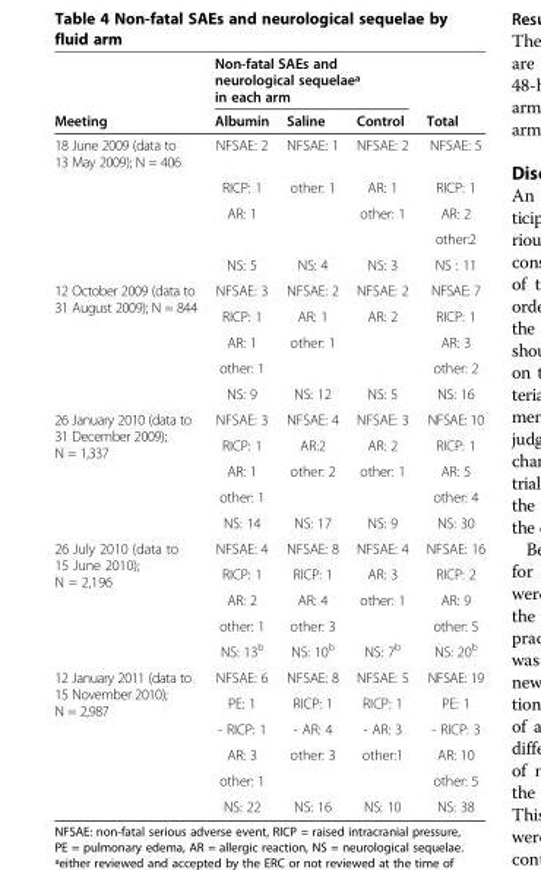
<table><thead><tr><td rowspan="2">Meeting</td><td colspan="3">Non-fatal SAEs and neurological sequelae<sup>ª</sup> in each arm</td><td rowspan="2">Total</td></tr><tr><td>Albumin</td><td>Saline</td><td>Control</td></tr></thead><tbody><tr><td rowspan="5">18 June 2009 (data to 13 May 2009); N = 406</td><td>NFSAE: 2</td><td>NFSAE: 1</td><td>NFSAE: 2</td><td>NFSAE: 5</td></tr><tr><td>RICP: 1</td><td>other: 1</td><td>AR: 1</td><td>RICP: 1</td></tr><tr><td>AR: 1</td><td></td><td>other: 1</td><td>AR: 2</td></tr><tr><td></td><td></td><td></td><td>other:2</td></tr><tr><td>NS: 5</td><td>NS: 4</td><td>NS: 3</td><td>NS : 11</td></tr><tr><td rowspan="5">12 October 2009 (data to 31 August 2009); N = 844</td><td>NFSAE: 3</td><td>NFSAE: 2</td><td>NFSAE: 2</td><td>NFSAE: 7</td></tr><tr><td>RICP: 1</td><td>AR: 1</td><td>AR: 2</td><td>RICP: 1</td></tr><tr><td>AR: 1</td><td>other: 1</td><td></td><td>AR: 3</td></tr><tr><td>other: 1</td><td></td><td></td><td>other: 2</td></tr><tr><td>NS: 9</td><td>NS: 12</td><td>NS: 5</td><td>NS: 16</td></tr><tr><td rowspan="5">26 January 2010 (data to 31 December 2009); N = 1,337</td><td>NFSAE: 3</td><td>NFSAE: 4</td><td>NFSAE: 3</td><td>NFSAE: 10</td></tr><tr><td>RICP: 1</td><td>AR:2</td><td>AR: 2</td><td>RICP: 1</td></tr><tr><td>AR: 1</td><td>other: 2</td><td>other: 1</td><td>AR: 5</td></tr><tr><td>other: 1</td><td></td><td></td><td>other: 4</td></tr><tr><td>NS: 14</td><td>NS: 17</td><td>NS: 9</td><td>NS: 30</td></tr><tr><td rowspan="5">26 July 2010 (data to 15 June 2010); N = 2,196</td><td>NFSAE: 4</td><td>NFSAE: 8</td><td>NFSAE: 4</td><td>NFSAE: 16</td></tr><tr><td>RICP: 1</td><td>RICP: 1</td><td>AR: 3</td><td>RICP: 2</td></tr><tr><td>AR: 2</td><td>AR: 4</td><td>other: 1</td><td>AR: 9</td></tr><tr><td>other: 1</td><td>other: 3</td><td></td><td>other: 5</td></tr><tr><td>NS: 13<sup>b</sup></td><td>NS: 10<sup>b</sup></td><td>NS: 7<sup>b</sup></td><td>NS: 20<sup>b</sup></td></tr><tr><td rowspan="6">12 January 2011 (data to 15 November 2010); N = 2,987</td><td>NFSAE: 6</td><td>NFSAE: 8</td><td>NFSAE: 5</td><td>NFSAE: 19</td></tr><tr><td>PE: 1</td><td>RICP: 1</td><td>RICP: 1</td><td>PE: 1</td></tr><tr><td>- RICP: 1</td><td>- AR: 4</td><td>- AR: 3</td><td>- RICP: 3</td></tr><tr><td>AR: 3</td><td>other: 3</td><td>other:1</td><td>AR: 10</td></tr><tr><td>other: 1</td><td></td><td></td><td>other: 5</td></tr><tr><td>NS: 22</td><td>NS: 16</td><td>NS: 10</td><td>NS: 38</td></tr></tbody></table>